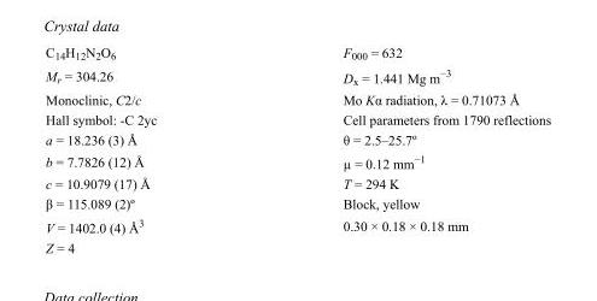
<table><tbody><tr><td>C<sub>14</sub>H<sub>12</sub>N<sub>2</sub>O<sub>6</sub></td><td>F000 = 632</td></tr><tr><td>M<sub>r</sub> = 304.26</td><td>D<sub>x</sub> = 1.441 Mg m<sup>−3</sup></td></tr><tr><td>Monoclinic, C2/c</td><td>Mo Kα radiation, λ = 0.71073 Å</td></tr><tr><td>Hall symbol: -C 2yc</td><td>Cell parameters from 1790 reflections</td></tr><tr><td>a = 18.236 (3) Å</td><td>θ = 2.5–25.7º</td></tr><tr><td>b = 7.7826 (12) Å</td><td>µ = 0.12 mm<sup>−1</sup></td></tr><tr><td>c = 10.9079 (17) Å</td><td>T = 294 K</td></tr><tr><td>β = 115.089 (2)º</td><td>Block, yellow</td></tr><tr><td>V = 1402.0 (4) Å<sup>3</sup></td><td>0.30 × 0.18 × 0.18 mm</td></tr><tr><td>Z = 4</td><td></td></tr></tbody></table>